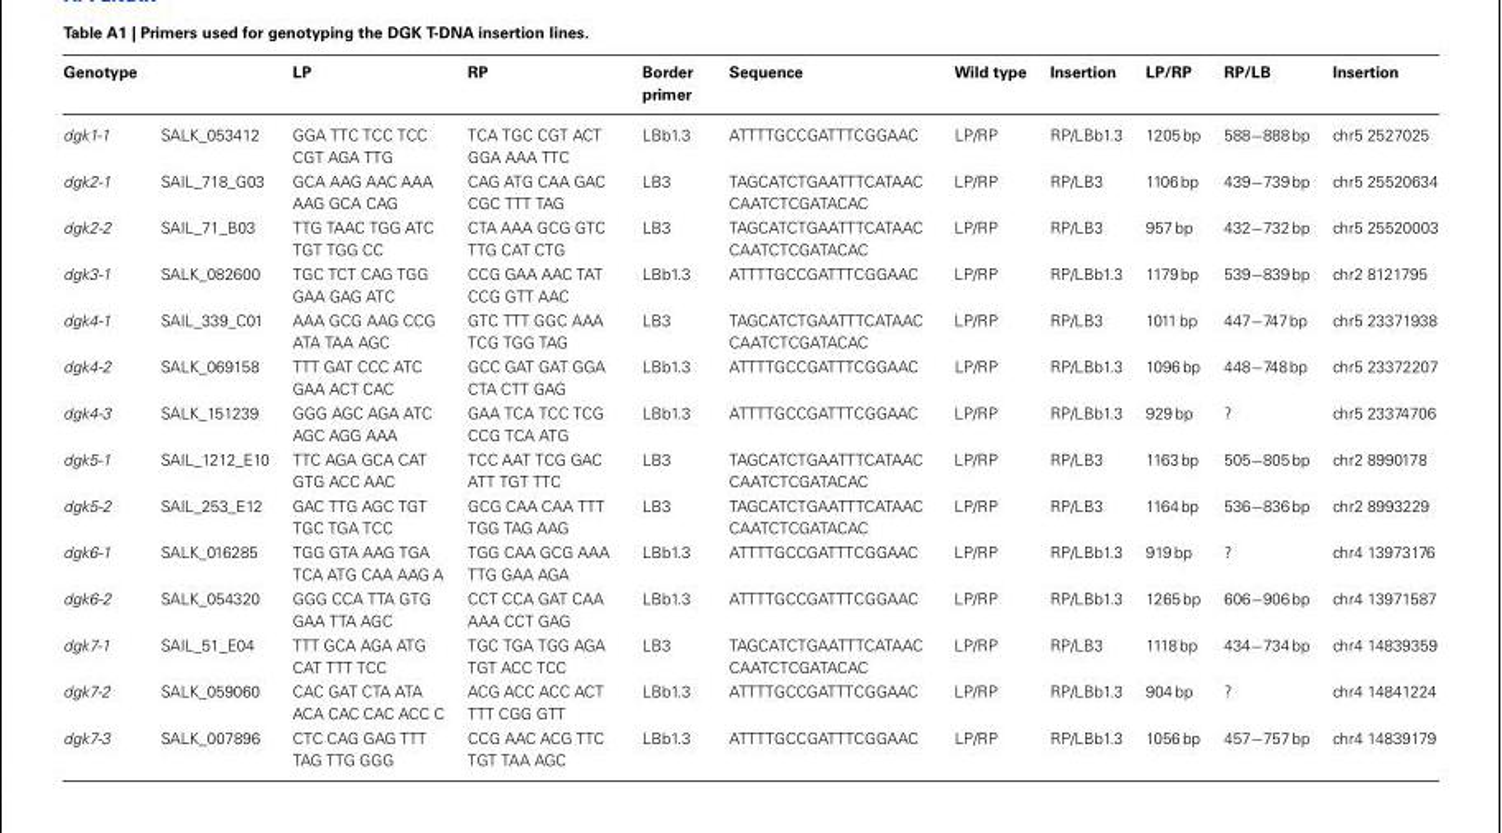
<table><thead><tr><td>Genotype</td><td></td><td>LP</td><td>RP</td><td>Border primer</td><td>Sequence</td><td>Wild type</td><td>Insertion</td><td>LP/RP</td><td>RP/LB</td><td>Insertion</td></tr></thead><tbody><tr><td>dgk1-1</td><td>SALK_053412</td><td>GGA TTC TCC TCC CGT AGA TTG</td><td>TCA TGC CGT ACT GGA AAA TTC</td><td>LBb1.3</td><td>ATTTTGCCGATTTCGGAAC</td><td>LP/RP</td><td>RP/LBb1.3</td><td>1205bp</td><td>588−888bp</td><td>chr5 2527025</td></tr><tr><td>dgk2-1</td><td>SAIL_718_G03</td><td>GCA AAG AAC AAA AAG GCA CAG</td><td>CAG ATG CAA GAC CGC TTT TAG</td><td>LB3</td><td>TAGCATCTGAATTTCATAAC CAATCTCGATACAC</td><td>LP/RP</td><td>RP/LB3</td><td>1106 bp</td><td>439−739bp</td><td>chr5 25520634</td></tr><tr><td>dgk2-2</td><td>SAIL_71_B03</td><td>TTG TAAC TGG ATC TGT TGG CC</td><td>CTA AAA GCG GTC TTG CAT CTG</td><td>LB3</td><td>TAGCATCTGAATTTCATAAC CAATCTCGATACAC</td><td>LP/RP</td><td>RP/LB3</td><td>957 bp</td><td>432−732bp</td><td>chr5 25520003</td></tr><tr><td>dgk3-1</td><td>SALK_082600</td><td>TGC TCT CAG TGG GAA GAG ATC</td><td>CCG GAA AAC TAT CCG GTT AAC</td><td>LBb1.3</td><td>ATTTTGCCGATTTCGGAAC</td><td>LP/RP</td><td>RP/LBb1.3</td><td>1179bp</td><td>539−839bp</td><td>chr2 8121795</td></tr><tr><td>dgk4-1</td><td>SAIL_339_C01</td><td>AAA GCG AAG CCG ATA TAA AGC</td><td>GTC TTT GGC AAA TCG TGG TAG</td><td>LB3</td><td>TAGCATCTGAATTTCATAAC CAATCTCGATACAC</td><td>LP/RP</td><td>RP/LB3</td><td>1011 bp</td><td>447−747bp</td><td>chr5 23371938</td></tr><tr><td>dgk4-2</td><td>SALK_069158</td><td>TTT GAT CCC ATC GAA ACT CAC</td><td>GCC GAT GAT GGA CTA CTT GAG</td><td>LBb1.3</td><td>ATTTTGCCGATTTCGGAAC</td><td>LP/RP</td><td>RP/LBb1.3</td><td>1096 bp</td><td>448−748bp</td><td>chr5 23372207</td></tr><tr><td>dgk4-3</td><td>SALK_151239</td><td>GGG AGC AGA ATC AGC AGG AAA</td><td>GAA TCA TCC TCG CCG TCA ATG</td><td>LBb1.3</td><td>ATTTTGCCGATTTCGGAAC</td><td>LP/RP</td><td>RP/LBb1.3</td><td>929 bp</td><td>?</td><td>chr5 23374706</td></tr><tr><td>dgk5-1</td><td>SAIL_1212_E10</td><td>TTC AGA GCA CAT GTG ACC AAC</td><td>TCC AAT TCG GAC ATT TGT TTC</td><td>LB3</td><td>TAGCATCTGAATTTCATAAC CAATCTCGATACAC</td><td>LP/RP</td><td>RP/LB3</td><td>1163bp</td><td>505−805bp</td><td>chr2 8990178</td></tr><tr><td>dgk5-2</td><td>SAIL_253_E12</td><td>GAC TTG AGC TGT TGC TGA TCC</td><td>GCG CAA CAA TTT TGG TAG AAG</td><td>LB3</td><td>TAGCATCTGAATTTCATAAC CAATCTCGATACAC</td><td>LP/RP</td><td>RP/LB3</td><td>1164bp</td><td>536−836bp</td><td>chr2 8993229</td></tr><tr><td>dgk6-1</td><td>SALK_016285</td><td>TGG GTA AAG TGA TCA ATG CAA AAG A</td><td>TGG CAA GCG AAA TTG GAA AGA</td><td>LBb1.3</td><td>ATTTTGCCGATTTCGGAAC</td><td>LP/RP</td><td>RP/LBb1.3</td><td>919 bp</td><td>?</td><td>chr4 13973176</td></tr><tr><td>dgk6-2</td><td>SALK_054320</td><td>GGG CCA TTA GTG GAA TTA AGC</td><td>CCT CCA GAT CAA AAA CCT GAG</td><td>LBb1.3</td><td>ATTTTGCCGATTTCGGAAC</td><td>LP/RP</td><td>RP/LBb1.3</td><td>1265bp</td><td>606−906bp</td><td>chr4 13971587</td></tr><tr><td>dgk7-1</td><td>SAIL_51_E04</td><td>TTT GCA AGA ATG CAT TTT TCC</td><td>TGC TGA TGG AGA TGT ACC TCC</td><td>LB3</td><td>TAGCATCTGAATTTCATAAC CAATCTCGATACAC</td><td>LP/RP</td><td>RP/LB3</td><td>1118bp</td><td>434−734bp</td><td>chr4 14839359</td></tr><tr><td>dgk7-2</td><td>SALK_059060</td><td>CAC GAT CTA ATA ACA CAC CAC ACC C</td><td>ACG ACC ACC ACT TTT CGG GTT</td><td>LBb1.3</td><td>ATTTTGCCGATTTCGGAAC</td><td>LP/RP</td><td>RP/LBb1.3</td><td>904 bp</td><td>?</td><td>chr4 14841224</td></tr><tr><td>dgk7-3</td><td>SALK_007896</td><td>CTC CAG GAG TTT TAG TTG GGG</td><td>CCG AAC ACG TTC TGT TAA AGC</td><td>LBb1.3</td><td>ATTTTGCCGATTTCGGAAC</td><td>LP/RP</td><td>RP/LBb1.3</td><td>1056 bp</td><td>457−757bp</td><td>chr4 14839179</td></tr></tbody></table>